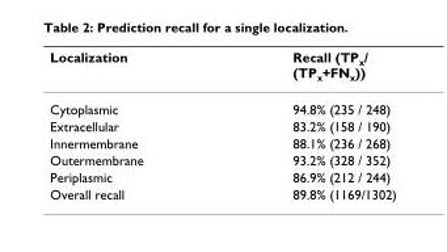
<table><thead><tr><td>Localization</td><td>Recall (TP<sub>x</sub>/ (TP<sub>x</sub>+FN<sub>x</sub>))</td></tr></thead><tbody><tr><td>Cytoplasmic</td><td>94.8% (235 / 248)</td></tr><tr><td>Extracellular</td><td>83.2% (158 / 190)</td></tr><tr><td>Innermembrane</td><td>88.1% (236 / 268)</td></tr><tr><td>Outermembrane</td><td>93.2% (328 / 352)</td></tr><tr><td>Periplasmic</td><td>86.9% (212 / 244)</td></tr><tr><td>Overall recall</td><td>89.8% (1169/1302)</td></tr></tbody></table>